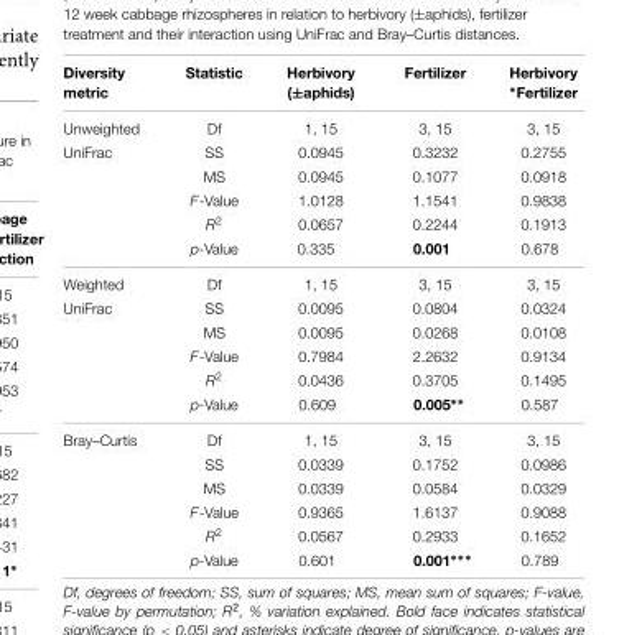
<table><thead><tr><td>Diversity metric</td><td>Statistic</td><td>Herbivory (±aphids)</td><td>Fertilizer</td><td>Herbivory ∗Fertilizer</td></tr></thead><tbody><tr><td>Unweighted</td><td>Df</td><td>1, 15</td><td>3, 15</td><td>3, 15</td></tr><tr><td rowspan="5">UniFrac</td><td>SS</td><td>0.0945</td><td>0.3232</td><td>0.2755</td></tr><tr><td>MS</td><td>0.0945</td><td>0.1077</td><td>0.0918</td></tr><tr><td>F-Value</td><td>1.0128</td><td>1.1541</td><td>0.9838</td></tr><tr><td>R<sup>2</sup></td><td>0.0657</td><td>0.2244</td><td>0.1913</td></tr><tr><td>p-Value</td><td>0.335</td><td>0.001</td><td>0.678</td></tr><tr><td>Weighted</td><td>Df</td><td>1, 15</td><td>3, 15</td><td>3, 15</td></tr><tr><td rowspan="5">UniFrac</td><td>SS</td><td>0.0095</td><td>0.0804</td><td>0.0324</td></tr><tr><td>MS</td><td>0.0095</td><td>0.0268</td><td>0.0108</td></tr><tr><td>F-Value</td><td>0.7984</td><td>2.2632</td><td>0.9134</td></tr><tr><td>R<sup>2</sup></td><td>0.0436</td><td>0.3705</td><td>0.1495</td></tr><tr><td>p-Value</td><td>0.609</td><td>0.005∗∗</td><td>0.587</td></tr><tr><td rowspan="6">Bray–Curtis</td><td>Df</td><td>1, 15</td><td>3, 15</td><td>3, 15</td></tr><tr><td>SS</td><td>0.0339</td><td>0.1752</td><td>0.0986</td></tr><tr><td>MS</td><td>0.0339</td><td>0.0584</td><td>0.0329</td></tr><tr><td>F-Value</td><td>0.9365</td><td>1.6137</td><td>0.9088</td></tr><tr><td>R<sup>2</sup></td><td>0.0567</td><td>0.2933</td><td>0.1652</td></tr><tr><td>p-Value</td><td>0.601</td><td>0.001∗∗∗</td><td>0.789</td></tr></tbody></table>